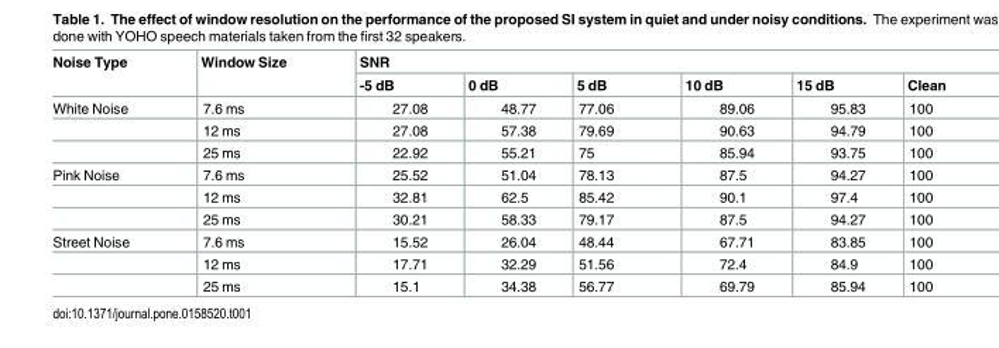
<table><thead><tr><td rowspan="2">Noise Type</td><td rowspan="2">Window Size</td><td colspan="6">SNR</td></tr><tr><td>-5 dB</td><td>0 dB</td><td>5 dB</td><td>10 dB</td><td>15 dB</td><td>Clean</td></tr></thead><tbody><tr><td rowspan="3">White Noise</td><td>7.6 ms</td><td>27.08</td><td>48.77</td><td>77.06</td><td>89.06</td><td>95.83</td><td>100</td></tr><tr><td>12 ms</td><td>27.08</td><td>57.38</td><td>79.69</td><td>90.63</td><td>94.79</td><td>100</td></tr><tr><td>25 ms</td><td>22.92</td><td>55.21</td><td>75</td><td>85.94</td><td>93.75</td><td>100</td></tr><tr><td rowspan="3">Pink Noise</td><td>7.6 ms</td><td>25.52</td><td>51.04</td><td>78.13</td><td>87.5</td><td>94.27</td><td>100</td></tr><tr><td>12 ms</td><td>32.81</td><td>62.5</td><td>85.42</td><td>90.1</td><td>97.4</td><td>100</td></tr><tr><td>25 ms</td><td>30.21</td><td>58.33</td><td>79.17</td><td>87.5</td><td>94.27</td><td>100</td></tr><tr><td rowspan="3">Street Noise</td><td>7.6 ms</td><td>15.52</td><td>26.04</td><td>48.44</td><td>67.71</td><td>83.85</td><td>100</td></tr><tr><td>12 ms</td><td>17.71</td><td>32.29</td><td>51.56</td><td>72.4</td><td>84.9</td><td>100</td></tr><tr><td>25 ms</td><td>15.1</td><td>34.38</td><td>56.77</td><td>69.79</td><td>85.94</td><td>100</td></tr></tbody></table>